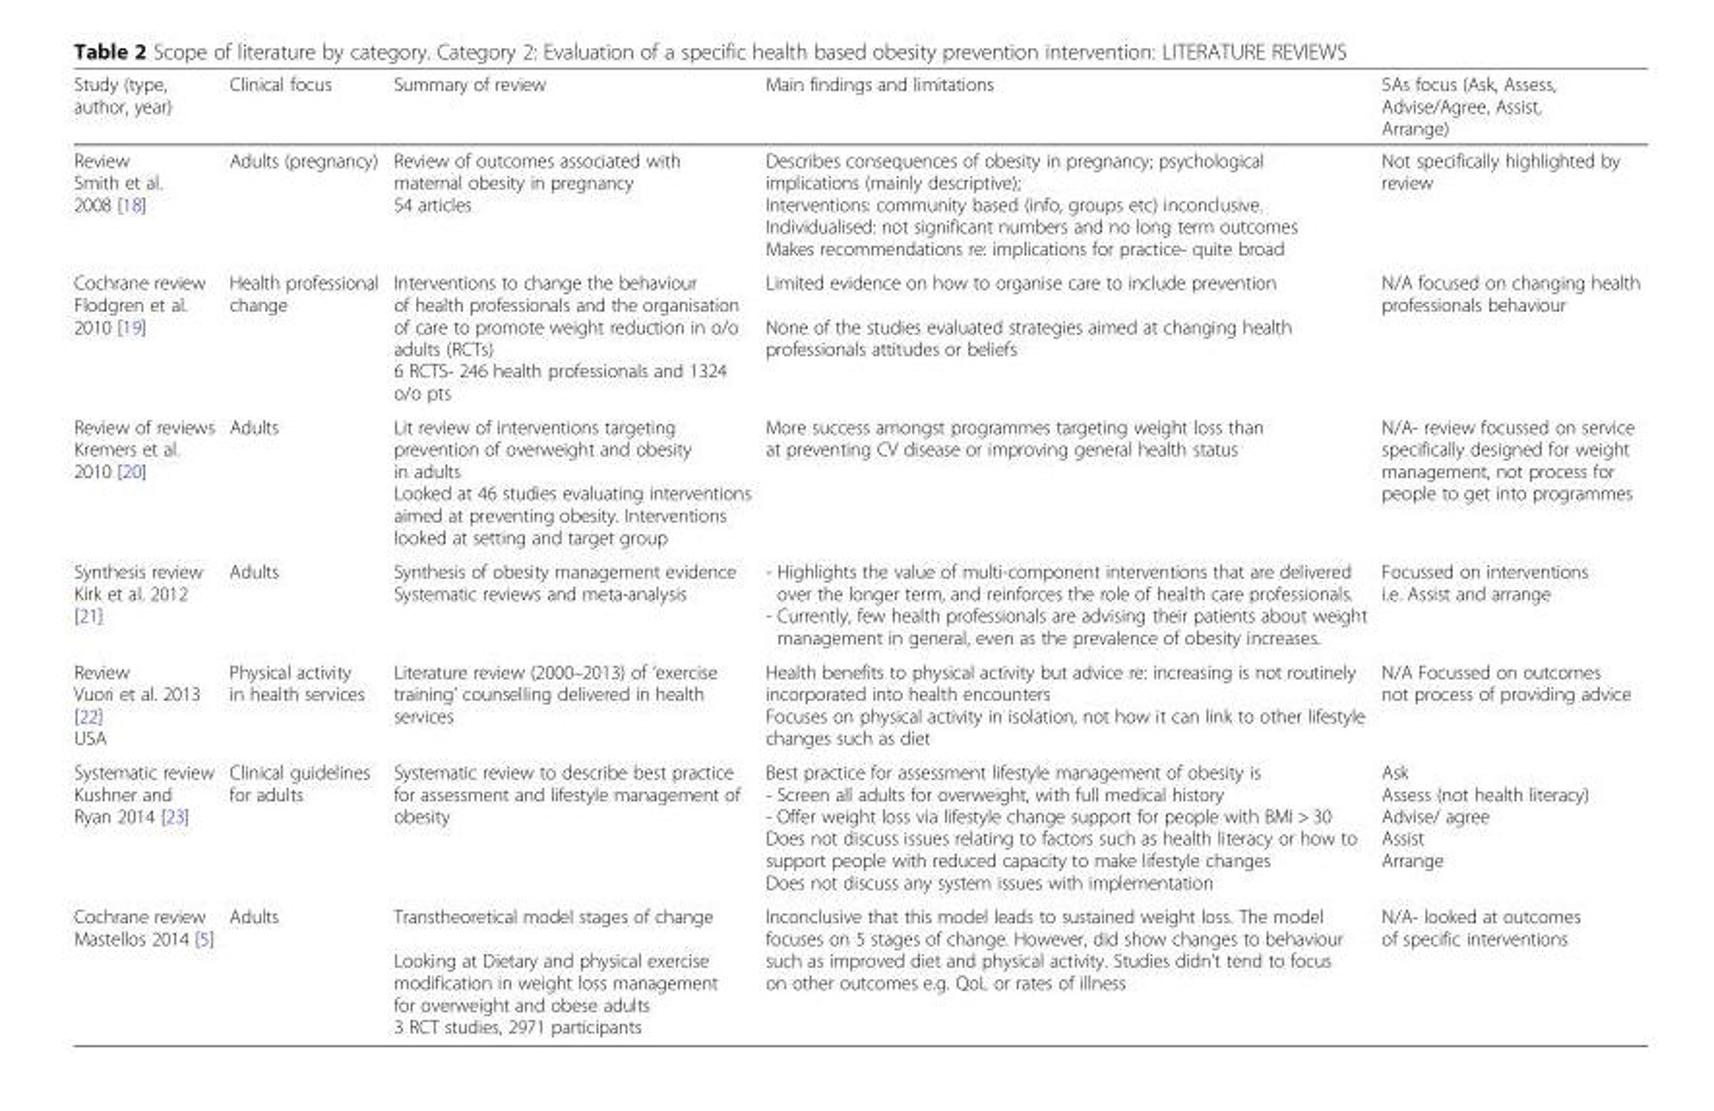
<table><thead><tr><td>Study (type, author, year)</td><td>Clinical focus</td><td>Summary of review</td><td>Main findings and limitations</td><td>5As focus (Ask, Assess, Advise/Agree, Assist, Arrange)</td></tr></thead><tbody><tr><td>Review Smith et al. 2008 [18]</td><td>Adults (pregnancy)</td><td>Review of outcomes associated with maternal obesity in pregnancy 54 articles</td><td>Describes consequences of obesity in pregnancy; psychological implications (mainly descriptive); Interventions: community based (info, groups etc) inconclusive. Individualised: not significant numbers and no long term outcomes Makes recommendations re: implications for practice- quite broad</td><td>Not specifically highlighted by review</td></tr><tr><td>Cochrane review Flodgren et al. 2010 [19]</td><td>Health professional change</td><td>Interventions to change the behaviour of health professionals and the organisation of care to promote weight reduction in o/o adults (RCTs) 6 RCTS- 246 health professionals and 1324 o/o pts</td><td>Limited evidence on how to organise care to include prevention None of the studies evaluated strategies aimed at changing health professionals attitudes or beliefs</td><td>N/A focused on changing health professionals behaviour</td></tr><tr><td>Review of reviews Kremers et al. 2010 [20]</td><td>Adults</td><td>Lit review of interventions targeting prevention of overweight and obesity in adults Looked at 46 studies evaluating interventions aimed at preventing obesity. Interventions looked at setting and target group</td><td>More success amongst programmes targeting weight loss than at preventing CV disease or improving general health status</td><td>N/A- review focussed on service specifically designed for weight management, not process for people to get into programmes</td></tr><tr><td>Synthesis review Kirk et al. 2012 [21]</td><td>Adults</td><td>Synthesis of obesity management evidence Systematic reviews and meta-analysis</td><td>- Highlights the value of multi-component interventions that are delivered over the longer term, and reinforces the role of health care professionals. - Currently, few health professionals are advising their patients about weight management in general, even as the prevalence of obesity increases.</td><td>Focussed on interventions i.e. Assist and arrange</td></tr><tr><td>Review Vuori et al. 2013 [22] USA</td><td>Physical activity in health services</td><td>Literature review (2000–2013) of ‘exercise training’ counselling delivered in health services</td><td>Health benefits to physical activity but advice re: increasing is not routinely incorporated into health encounters Focuses on physical activity in isolation, not how it can link to other lifestyle changes such as diet</td><td>N/A Focussed on outcomes not process of providing advice</td></tr><tr><td>Systematic review Kushner and Ryan 2014 [23]</td><td>Clinical guidelines for adults</td><td>Systematic review to describe best practice for assessment and lifestyle management of obesity</td><td>Best practice for assessment lifestyle management of obesity is - Screen all adults for overweight, with full medical history - Offer weight loss via lifestyle change support for people with BMI &gt; 30 Does not discuss issues relating to factors such as health literacy or how to support people with reduced capacity to make lifestyle changes Does not discuss any system issues with implementation</td><td>Ask Assess (not health literacy) Advise/ agree Assist Arrange</td></tr><tr><td>Cochrane review Mastellos 2014 [5]</td><td>Adults</td><td>Transtheoretical model stages of change Looking at Dietary and physical exercise modification in weight loss management for overweight and obese adults 3 RCT studies, 2971 participants</td><td>Inconclusive that this model leads to sustained weight loss. The model focuses on 5 stages of change. However, did show changes to behaviour such as improved diet and physical activity. Studies didn’t tend to focus on other outcomes e.g. QoL or rates of illness</td><td>N/A- looked at outcomes of specific interventions</td></tr></tbody></table>